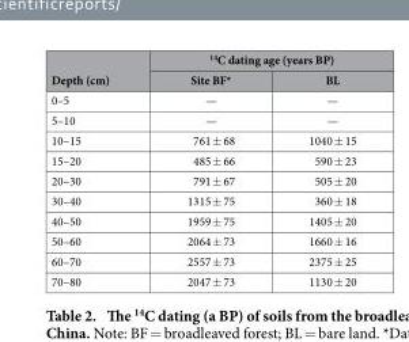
<table><thead><tr><td rowspan="2">Depth (cm)</td><td colspan="2"><sup>14</sup>C dating age (years BP)</td></tr><tr><td>Site BF*</td><td>BL</td></tr></thead><tbody><tr><td>0–5</td><td>—</td><td>—</td></tr><tr><td>5–10</td><td>—</td><td>—</td></tr><tr><td>10–15</td><td>761 ± 68</td><td>1040 ± 15</td></tr><tr><td>15–20</td><td>485 ± 66</td><td>590 ± 23</td></tr><tr><td>20–30</td><td>791 ± 67</td><td>505 ± 20</td></tr><tr><td>30–40</td><td>1315 ± 75</td><td>360 ± 18</td></tr><tr><td>40–50</td><td>1959 ± 75</td><td>1405 ± 20</td></tr><tr><td>50–60</td><td>2064 ± 73</td><td>1660 ± 16</td></tr><tr><td>60–70</td><td>2557 ± 73</td><td>2375 ± 25</td></tr><tr><td>70–80</td><td>2047 ± 73</td><td>1130 ± 20</td></tr></tbody></table>